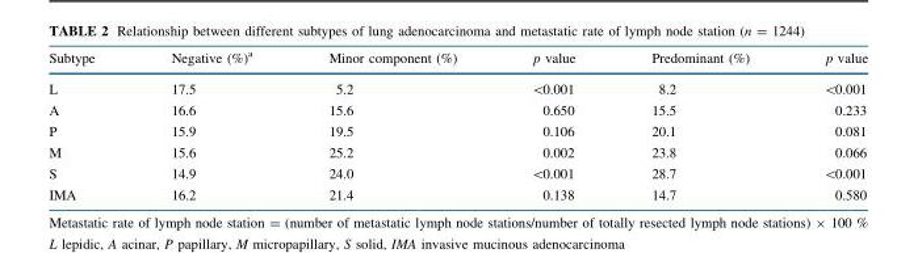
<table><thead><tr><td>Subtype</td><td>Negative (%)<sup>a</sup></td><td>Minor component (%)</td><td>p value</td><td>Predominant (%)</td><td>p value</td></tr></thead><tbody><tr><td>L</td><td>17.5</td><td>5.2</td><td>&lt;0.001</td><td>8.2</td><td>&lt;0.001</td></tr><tr><td>A</td><td>16.6</td><td>15.6</td><td>0.650</td><td>15.5</td><td>0.233</td></tr><tr><td>P</td><td>15.9</td><td>19.5</td><td>0.106</td><td>20.1</td><td>0.081</td></tr><tr><td>M</td><td>15.6</td><td>25.2</td><td>0.002</td><td>23.8</td><td>0.066</td></tr><tr><td>S</td><td>14.9</td><td>24.0</td><td>&lt;0.001</td><td>28.7</td><td>&lt;0.001</td></tr><tr><td>IMA</td><td>16.2</td><td>21.4</td><td>0.138</td><td>14.7</td><td>0.580</td></tr></tbody></table>